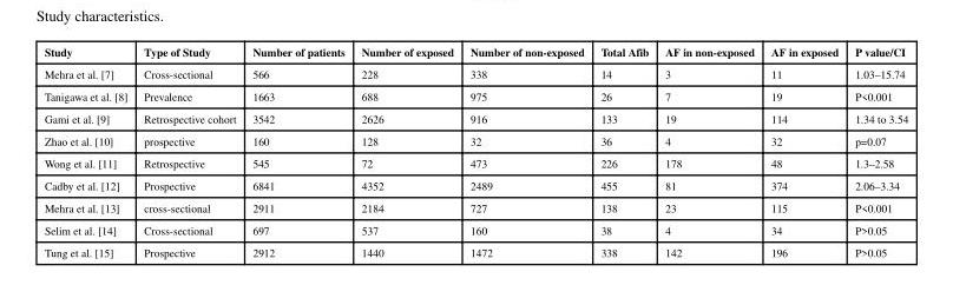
<table><thead><tr><td>Study</td><td>Type of Study</td><td>Number of patients</td><td>Number of exposed</td><td>Number of non-exposed</td><td>Total Afib</td><td>AF in non-exposed</td><td>AF in exposed</td><td>P value/CI</td></tr></thead><tbody><tr><td>Mehra et al. [7]</td><td>Cross-sectional</td><td>566</td><td>228</td><td>338</td><td>14</td><td>3</td><td>11</td><td>1.03–15.74</td></tr><tr><td>Tanigawa et al. [8]</td><td>Prevalence</td><td>1663</td><td>688</td><td>975</td><td>26</td><td>7</td><td>19</td><td>P&lt;0.001</td></tr><tr><td>Gami et al. [9]</td><td>Retrospective cohort</td><td>3542</td><td>2626</td><td>916</td><td>133</td><td>19</td><td>114</td><td>1.34 to 3.54</td></tr><tr><td>Zhao et al. [10]</td><td>prospective</td><td>160</td><td>128</td><td>32</td><td>36</td><td>4</td><td>32</td><td>p=0.07</td></tr><tr><td>Wong et al. [11]</td><td>Retrospective</td><td>545</td><td>72</td><td>473</td><td>226</td><td>178</td><td>48</td><td>1.3–2.58</td></tr><tr><td>Cadby et al. [12]</td><td>Prospective</td><td>6841</td><td>4352</td><td>2489</td><td>455</td><td>81</td><td>374</td><td>2.06–3.34</td></tr><tr><td>Mehra et al. [13]</td><td>cross-sectional</td><td>2911</td><td>2184</td><td>727</td><td>138</td><td>23</td><td>115</td><td>P&lt;0.001</td></tr><tr><td>Selim et al. [14]</td><td>Cross-sectional</td><td>697</td><td>537</td><td>160</td><td>38</td><td>4</td><td>34</td><td>P&gt;0.05</td></tr><tr><td>Tung et al. [15]</td><td>Prospective</td><td>2912</td><td>1440</td><td>1472</td><td>338</td><td>142</td><td>196</td><td>P&gt;0.05</td></tr></tbody></table>